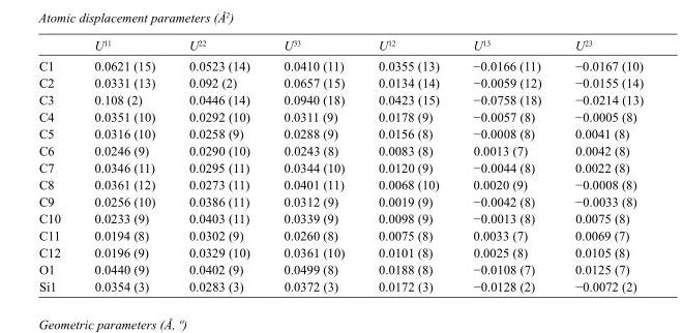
<table><thead><tr><td></td><td>U<sup>11</sup></td><td>U<sup>22</sup></td><td>U<sup>33</sup></td><td>U<sup>12</sup></td><td>U<sup>13</sup></td><td>U<sup>23</sup></td></tr></thead><tbody><tr><td>C1</td><td>0.0621 (15)</td><td>0.0523 (14)</td><td>0.0410 (11)</td><td>0.0355 (13)</td><td>−0.0166 (11)</td><td>−0.0167 (10)</td></tr><tr><td>C2</td><td>0.0331 (13)</td><td>0.092 (2)</td><td>0.0657 (15)</td><td>0.0134 (14)</td><td>−0.0059 (12)</td><td>−0.0155 (14)</td></tr><tr><td>C3</td><td>0.108 (2)</td><td>0.0446 (14)</td><td>0.0940 (18)</td><td>0.0423 (15)</td><td>−0.0758 (18)</td><td>−0.0214 (13)</td></tr><tr><td>C4</td><td>0.0351 (10)</td><td>0.0292 (10)</td><td>0.0311 (9)</td><td>0.0178 (9)</td><td>−0.0057 (8)</td><td>−0.0005 (8)</td></tr><tr><td>C5</td><td>0.0316 (10)</td><td>0.0258 (9)</td><td>0.0288 (9)</td><td>0.0156 (8)</td><td>−0.0008 (8)</td><td>0.0041 (8)</td></tr><tr><td>C6</td><td>0.0246 (9)</td><td>0.0290 (10)</td><td>0.0243 (8)</td><td>0.0083 (8)</td><td>0.0013 (7)</td><td>0.0042 (8)</td></tr><tr><td>C7</td><td>0.0346 (11)</td><td>0.0295 (11)</td><td>0.0344 (10)</td><td>0.0120 (9)</td><td>−0.0044 (8)</td><td>0.0022 (8)</td></tr><tr><td>C8</td><td>0.0361 (12)</td><td>0.0273 (11)</td><td>0.0401 (11)</td><td>0.0068 (10)</td><td>0.0020 (9)</td><td>−0.0008 (8)</td></tr><tr><td>C9</td><td>0.0256 (10)</td><td>0.0386 (11)</td><td>0.0312 (9)</td><td>0.0019 (9)</td><td>−0.0042 (8)</td><td>−0.0033 (8)</td></tr><tr><td>C10</td><td>0.0233 (9)</td><td>0.0403 (11)</td><td>0.0339 (9)</td><td>0.0098 (9)</td><td>−0.0013 (8)</td><td>0.0075 (8)</td></tr><tr><td>C11</td><td>0.0194 (8)</td><td>0.0302 (9)</td><td>0.0260 (8)</td><td>0.0075 (8)</td><td>0.0033 (7)</td><td>0.0069 (7)</td></tr><tr><td>C12</td><td>0.0196 (9)</td><td>0.0329 (10)</td><td>0.0361 (10)</td><td>0.0101 (8)</td><td>0.0025 (8)</td><td>0.0105 (8)</td></tr><tr><td>O1</td><td>0.0440 (9)</td><td>0.0402 (9)</td><td>0.0499 (8)</td><td>0.0188 (8)</td><td>−0.0108 (7)</td><td>0.0125 (7)</td></tr><tr><td>Si1</td><td>0.0354 (3)</td><td>0.0283 (3)</td><td>0.0372 (3)</td><td>0.0172 (3)</td><td>−0.0128 (2)</td><td>−0.0072 (2)</td></tr></tbody></table>